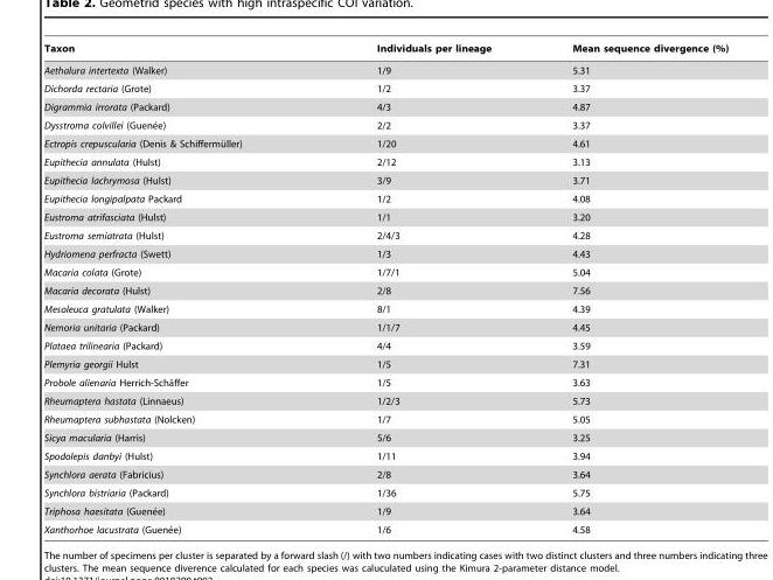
<table><thead><tr><td>Taxon</td><td>Individuals per lineage</td><td>Mean sequence divergence (%)</td></tr></thead><tbody><tr><td>Aethalura intertexta (Walker)</td><td>1/9</td><td>5.31</td></tr><tr><td>Dichorda rectaria (Grote)</td><td>1/2</td><td>3.37</td></tr><tr><td>Digrammia irrorata (Packard)</td><td>4/3</td><td>4.87</td></tr><tr><td>Dysstroma colvillei (Guene´e)</td><td>2/2</td><td>3.37</td></tr><tr><td>Ectropis crepuscularia (Denis &amp; Schiffermu¨ller)</td><td>1/20</td><td>4.61</td></tr><tr><td>Eupithecia annulata (Hulst)</td><td>2/12</td><td>3.13</td></tr><tr><td>Eupithecia lachrymosa (Hulst)</td><td>3/9</td><td>3.71</td></tr><tr><td>Eupithecia longipalpata Packard</td><td>1/2</td><td>4.08</td></tr><tr><td>Eustroma atrifasciata (Hulst)</td><td>1/1</td><td>3.20</td></tr><tr><td>Eustroma semiatrata (Hulst)</td><td>2/4/3</td><td>4.28</td></tr><tr><td>Hydriomena perfracta (Swett)</td><td>1/3</td><td>4.43</td></tr><tr><td>Macaria colata (Grote)</td><td>1/7/1</td><td>5.04</td></tr><tr><td>Macaria decorata (Hulst)</td><td>2/8</td><td>7.56</td></tr><tr><td>Mesoleuca gratulata (Walker)</td><td>8/1</td><td>4.39</td></tr><tr><td>Nemoria unitaria (Packard)</td><td>1/1/7</td><td>4.45</td></tr><tr><td>Plataea trilinearia (Packard)</td><td>4/4</td><td>3.59</td></tr><tr><td>Plemyria georgii Hulst</td><td>1/5</td><td>7.31</td></tr><tr><td>Probole alienaria Herrich-Scha¨ffer</td><td>1/5</td><td>3.63</td></tr><tr><td>Rheumaptera hastata (Linnaeus)</td><td>1/2/3</td><td>5.73</td></tr><tr><td>Rheumaptera subhastata (Nolcken)</td><td>1/7</td><td>5.05</td></tr><tr><td>Sicya macularia (Harris)</td><td>5/6</td><td>3.25</td></tr><tr><td>Spodolepis danbyi (Hulst)</td><td>1/11</td><td>3.94</td></tr><tr><td>Synchlora aerata (Fabricius)</td><td>2/8</td><td>3.64</td></tr><tr><td>Synchlora bistriaria (Packard)</td><td>1/36</td><td>5.75</td></tr><tr><td>Triphosa haesitata (Guene´e)</td><td>1/9</td><td>3.64</td></tr><tr><td>Xanthorhoe lacustrata (Guene´e)</td><td>1/6</td><td>4.58</td></tr></tbody></table>